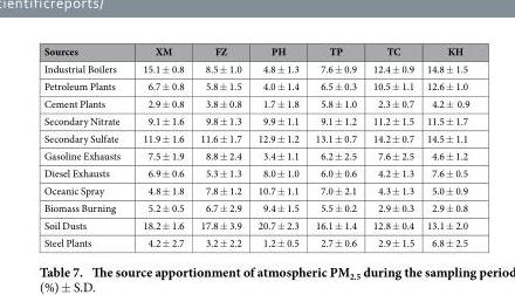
<table><thead><tr><td>Sources</td><td>XM</td><td>FZ</td><td>PH</td><td>TP</td><td>TC</td><td>KH</td></tr></thead><tbody><tr><td>Industrial Boilers</td><td>15.1 ± 0.8</td><td>8.5 ± 1.0</td><td>4.8 ± 1.3</td><td>7.6 ± 0.9</td><td>12.4 ± 0.9</td><td>14.8 ± 1.5</td></tr><tr><td>Petroleum Plants</td><td>6.7 ± 0.8</td><td>5.8 ± 1.5</td><td>4.0 ± 1.4</td><td>6.5 ± 0.3</td><td>10.5 ± 1.1</td><td>12.6 ± 1.0</td></tr><tr><td>Cement Plants</td><td>2.9 ± 0.8</td><td>3.8 ± 0.8</td><td>1.7 ± 1.8</td><td>5.8 ± 1.0</td><td>2.3 ± 0.7</td><td>4.2 ± 0.9</td></tr><tr><td>Secondary Nitrate</td><td>9.1 ± 1.6</td><td>9.8 ± 1.3</td><td>9.9 ± 1.1</td><td>9.1 ± 1.2</td><td>11.2 ± 1.5</td><td>11.5 ± 1.7</td></tr><tr><td>Secondary Sulfate</td><td>11.9 ± 1.6</td><td>11.6 ± 1.7</td><td>12.9 ± 1.2</td><td>13.1 ± 0.7</td><td>14.2 ± 0.7</td><td>14.5 ± 1.1</td></tr><tr><td>Gasoline Exhausts</td><td>7.5 ± 1.9</td><td>8.8 ± 2.4</td><td>3.4 ± 1.1</td><td>6.2 ± 2.5</td><td>7.6 ± 2.5</td><td>4.6 ± 1.2</td></tr><tr><td>Diesel Exhausts</td><td>6.9 ± 0.6</td><td>5.3 ± 1.3</td><td>8.0 ± 1.0</td><td>6.0 ± 0.6</td><td>4.2 ± 1.3</td><td>7.6 ± 0.5</td></tr><tr><td>Oceanic Spray</td><td>4.8 ± 1.8</td><td>7.8 ± 1.2</td><td>10.7 ± 1.1</td><td>7.0 ± 2.1</td><td>4.3 ± 1.3</td><td>5.0 ± 0.9</td></tr><tr><td>Biomass Burning</td><td>5.2 ± 0.5</td><td>6.7 ± 2.9</td><td>9.4 ± 1.5</td><td>5.5 ± 0.2</td><td>2.9 ± 0.3</td><td>2.9 ± 0.8</td></tr><tr><td>Soil Dusts</td><td>18.2 ± 1.6</td><td>17.8 ± 3.9</td><td>20.7 ± 2.3</td><td>16.1 ± 1.4</td><td>12.8 ± 0.4</td><td>13.1 ± 2.0</td></tr><tr><td>Steel Plants</td><td>4.2 ± 2.7</td><td>3.2 ± 2.2</td><td>1.2 ± 0.5</td><td>2.7 ± 0.6</td><td>2.9 ± 1.5</td><td>6.8 ± 2.5</td></tr></tbody></table>